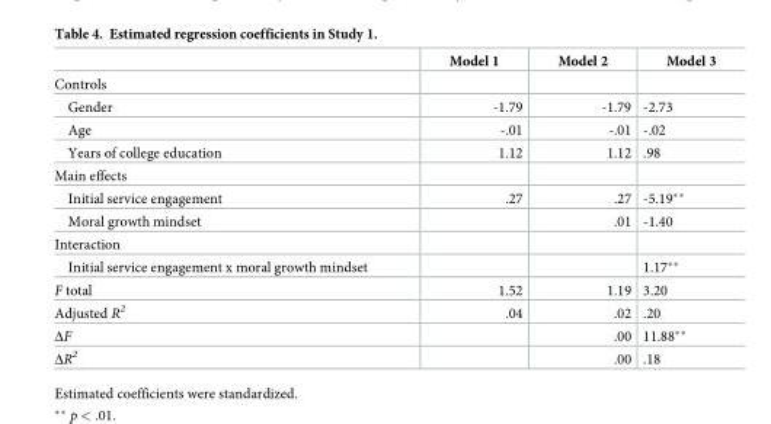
<table><thead><tr><td></td><td>Model 1</td><td>Model 2</td><td>Model 3</td></tr></thead><tbody><tr><td colspan="4">Controls</td></tr><tr><td>Gender</td><td>-1.79</td><td>-1.79</td><td>-2.73</td></tr><tr><td>Age</td><td>-.01</td><td>-.01</td><td>-.02</td></tr><tr><td>Years of college education</td><td>1.12</td><td>1.12</td><td>.98</td></tr><tr><td colspan="4">Main effects</td></tr><tr><td>Initial service engagement</td><td>.27</td><td>.27</td><td>-5.19**</td></tr><tr><td>Moral growth mindset</td><td></td><td>.01</td><td>-1.40</td></tr><tr><td colspan="4">Interaction</td></tr><tr><td>Initial service engagement x moral growth mindset</td><td></td><td></td><td>1.17**</td></tr><tr><td>F total</td><td>1.52</td><td>1.19</td><td>3.20</td></tr><tr><td>Adjusted R<sup>2</sup></td><td>.04</td><td>.02</td><td>.20</td></tr><tr><td>ΔF</td><td></td><td>.00</td><td>11.88**</td></tr><tr><td>ΔR<sup>2</sup></td><td></td><td>.00</td><td>.18</td></tr></tbody></table>